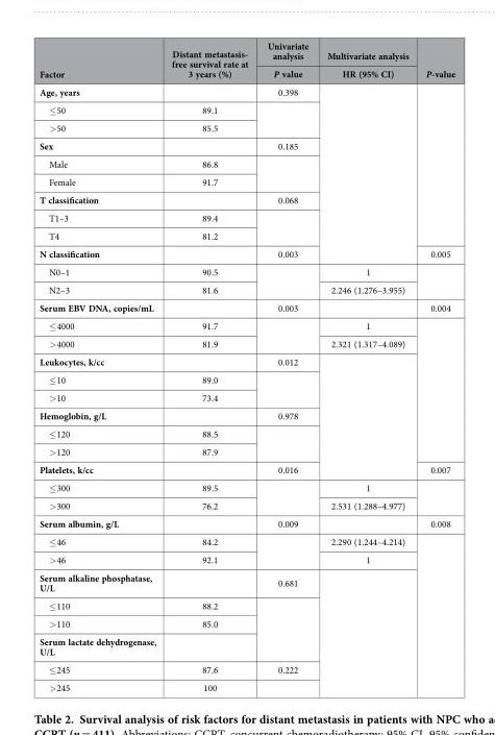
<table><thead><tr><td rowspan="2">Factor</td><td rowspan="2">Distant metastasis- free survival rate at 3 years (%)</td><td rowspan="2">Univariate analysis P value</td><td rowspan="2">Multivariate analysis HR (95% CI)</td><td rowspan="2">P-value</td></tr><tr></tr></thead><tbody><tr><td>Age, years</td><td></td><td>0.398</td><td rowspan="10"></td><td rowspan="9"></td></tr><tr><td>≤ 50</td><td>89.1</td><td rowspan="2"></td></tr><tr><td>&gt; 50</td><td>85.5</td></tr><tr><td>Sex</td><td></td><td>0.185</td></tr><tr><td>Male</td><td>86.8</td><td rowspan="2"></td></tr><tr><td>Female</td><td>91.7</td></tr><tr><td>T classification</td><td></td><td>0.068</td></tr><tr><td>T1–3</td><td>89.4</td><td rowspan="2"></td></tr><tr><td>T4</td><td>81.2</td></tr><tr><td>N classification</td><td></td><td>0.003</td><td>0.005</td></tr><tr><td>N0–1</td><td>90.5</td><td rowspan="2"></td><td>1</td><td rowspan="2"></td></tr><tr><td>N2–3</td><td>81.6</td><td>2.246 (1.276–3.955)</td></tr><tr><td>Serum EBV DNA, copies/mL</td><td></td><td>0.003</td><td></td><td>0.004</td></tr><tr><td>≤ 4000</td><td>91.7</td><td rowspan="2"></td><td>1</td><td rowspan="8"></td></tr><tr><td>&gt; 4000</td><td>81.9</td><td>2.321 (1.317–4.089)</td></tr><tr><td>Leukocytes, k/cc</td><td></td><td>0.012</td><td rowspan="7"></td></tr><tr><td>≤ 10</td><td>89.0</td><td rowspan="2"></td></tr><tr><td>&gt; 10</td><td>73.4</td></tr><tr><td>Hemoglobin, g/L</td><td></td><td>0.978</td></tr><tr><td>≤ 120</td><td>88.5</td><td rowspan="2"></td></tr><tr><td>&gt; 120</td><td>87.9</td></tr><tr><td>Platelets, k/cc</td><td></td><td>0.016</td><td>0.007</td></tr><tr><td>≤ 300</td><td>89.5</td><td rowspan="2"></td><td>1</td><td rowspan="2"></td></tr><tr><td>&gt; 300</td><td>76.2</td><td>2.531 (1.288–4.977)</td></tr><tr><td>Serum albumin, g/L</td><td></td><td>0.009</td><td></td><td>0.008</td></tr><tr><td>≤ 46</td><td>84.2</td><td rowspan="2"></td><td>2.290 (1.244–4.214)</td><td rowspan="8"></td></tr><tr><td>&gt; 46</td><td>92.1</td><td>1</td></tr><tr><td>Serum alkaline phosphatase, U/L</td><td></td><td>0.681</td><td rowspan="6"></td></tr><tr><td>≤ 110</td><td>88.2</td><td rowspan="3"></td></tr><tr><td>&gt; 110</td><td>85.0</td></tr><tr><td colspan="2">Serum lactate dehydrogenase, U/L</td></tr><tr><td>≤ 245</td><td>87.6</td><td>0.222</td></tr><tr><td>&gt; 245</td><td>100</td><td></td></tr></tbody></table>